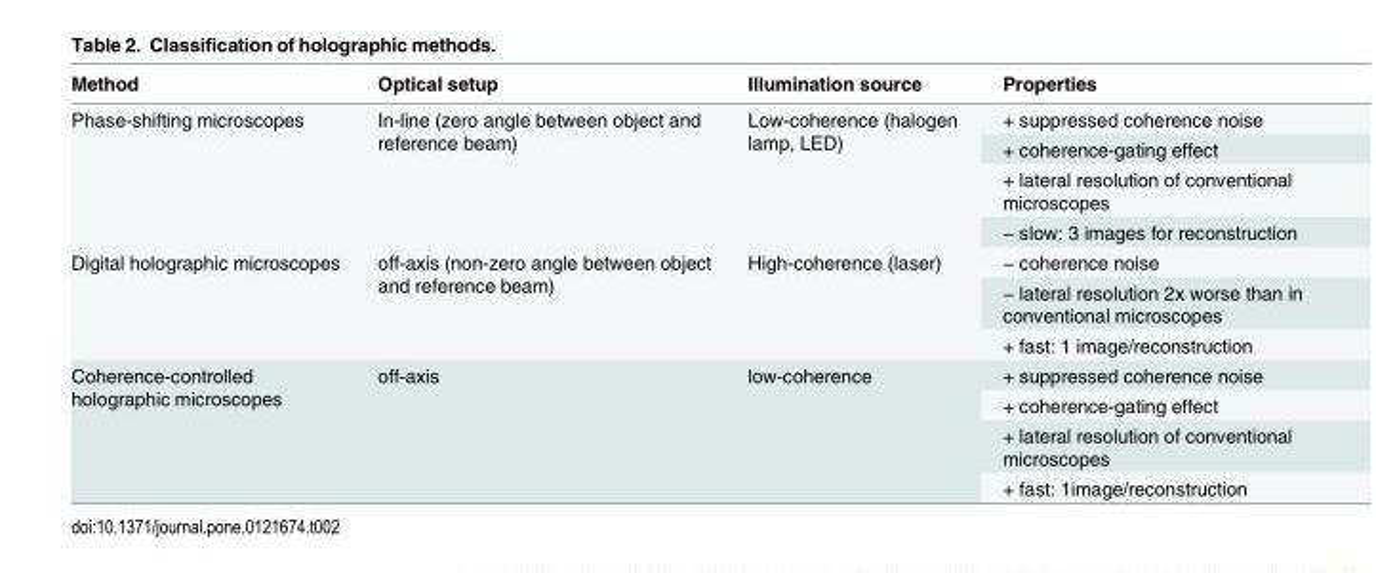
<table><thead><tr><td>Method</td><td>Optical setup</td><td>Illumination source</td><td>Properties</td></tr></thead><tbody><tr><td rowspan="4">Phase-shifting microscopes</td><td rowspan="4">In-line (zero angle between object and reference beam)</td><td rowspan="4">Low-coherence (halogen lamp, LED)</td><td>+ suppressed coherence noise</td></tr><tr><td>+ coherence-gating effect</td></tr><tr><td>+ lateral resolution of conventional microscopes</td></tr><tr><td>− slow: 3 images for reconstruction</td></tr><tr><td rowspan="3">Digital holographic microscopes</td><td rowspan="3">off-axis (non-zero angle between object and reference beam)</td><td rowspan="3">High-coherence (laser)</td><td>− coherence noise</td></tr><tr><td>− lateral resolution 2x worse than in conventional microscopes</td></tr><tr><td>+ fast: 1 image/reconstruction</td></tr><tr><td rowspan="4">Coherence-controlled holographic microscopes</td><td rowspan="4">off-axis</td><td rowspan="4">low-coherence</td><td>+ suppressed coherence noise</td></tr><tr><td>+ coherence-gating effect</td></tr><tr><td>+ lateral resolution of conventional microscopes</td></tr><tr><td>+ fast: 1image/reconstruction</td></tr></tbody></table>